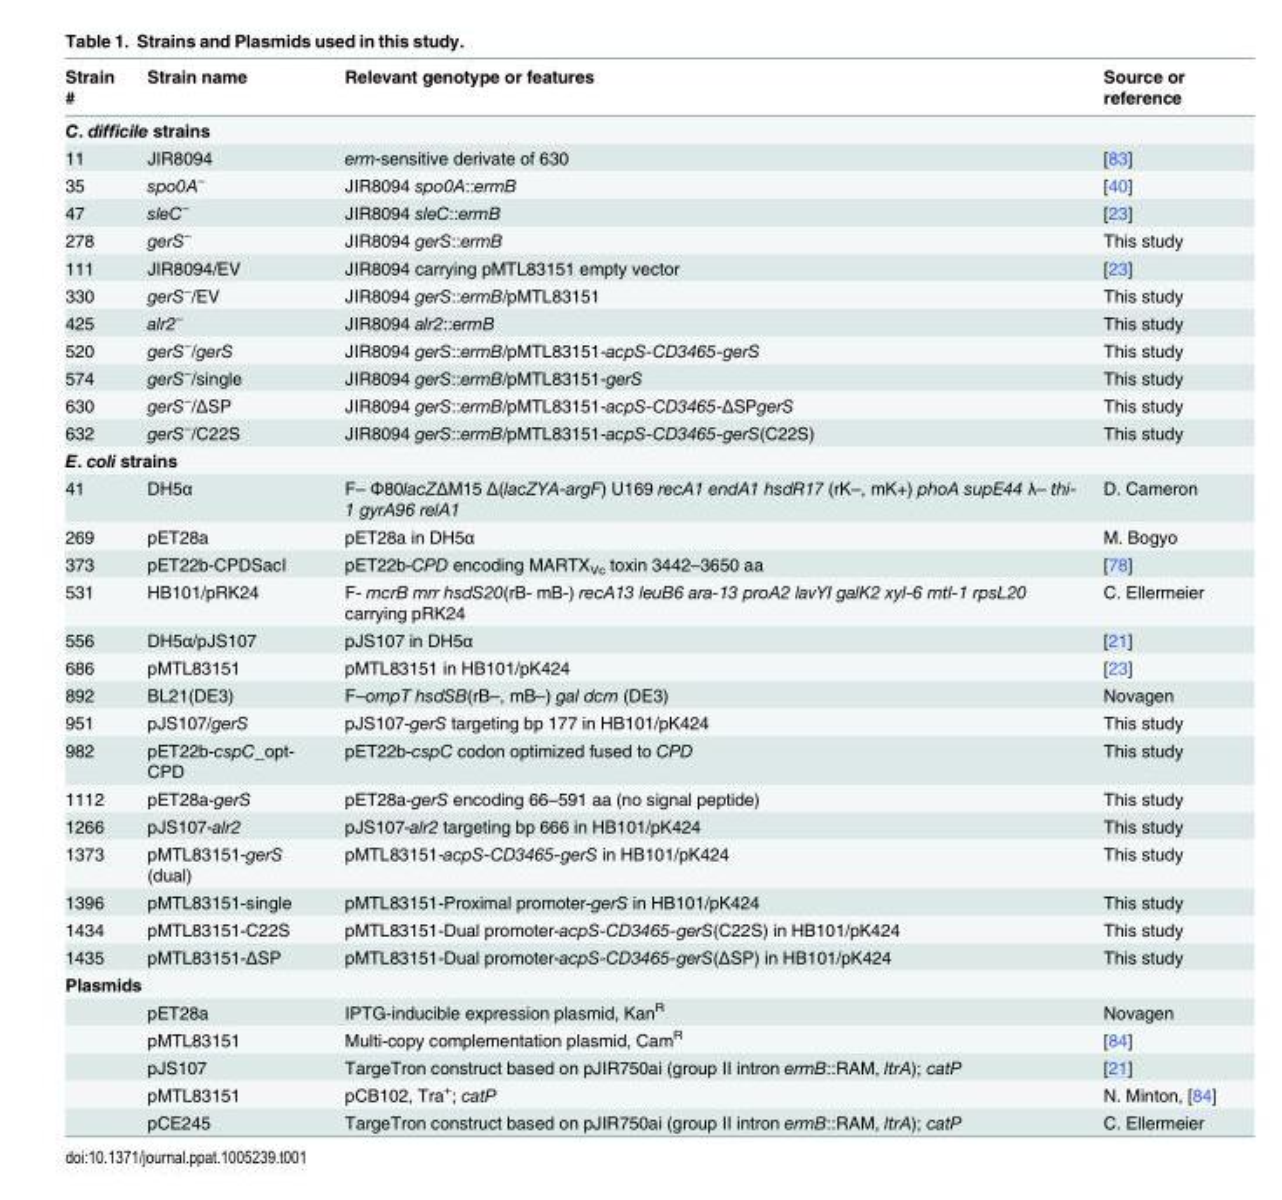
<table><thead><tr><td>Strain #</td><td>Strain name</td><td>Relevant genotype or features</td><td>Source or reference</td></tr></thead><tbody><tr><td colspan="4">C. difficile strains</td></tr><tr><td>11</td><td>JIR8094</td><td>erm-sensitive derivate of 630</td><td>[83]</td></tr><tr><td>35</td><td>spo0A<sup>−</sup></td><td>JIR8094 spo0A::ermB</td><td>[40]</td></tr><tr><td>47</td><td>sleC<sup>−</sup></td><td>JIR8094 sleC::ermB</td><td>[23]</td></tr><tr><td>278</td><td>gerS<sup>−</sup></td><td>JIR8094 gerS::ermB</td><td>This study</td></tr><tr><td>111</td><td>JIR8094/EV</td><td>JIR8094 carrying pMTL83151 empty vector</td><td>[23]</td></tr><tr><td>330</td><td>gerS<sup>−</sup>/EV</td><td>JIR8094 gerS::ermB/pMTL83151</td><td>This study</td></tr><tr><td>425</td><td>alr2<sup>−</sup></td><td>JIR8094 alr2::ermB</td><td>This study</td></tr><tr><td>520</td><td>gerS<sup>−</sup>/gerS</td><td>JIR8094 gerS::ermB/pMTL83151-acpS-CD3465-gerS</td><td>This study</td></tr><tr><td>574</td><td>gerS<sup>−</sup>/single</td><td>JIR8094 gerS::ermB/pMTL83151-gerS</td><td>This study</td></tr><tr><td>630</td><td>gerS<sup>−</sup>/ΔSP</td><td>JIR8094 gerS::ermB/pMTL83151-acpS-CD3465-ΔSPgerS</td><td>This study</td></tr><tr><td>632</td><td>gerS<sup>−</sup>/C22S</td><td>JIR8094 gerS::ermB/pMTL83151-acpS-CD3465-gerS(C22S)</td><td>This study</td></tr><tr><td colspan="4">E. coli strains</td></tr><tr><td>41</td><td>DH5α</td><td>F– Φ80lacZΔM15 Δ(lacZYA-argF) U169 recA1 endA1 hsdR17 (rK–, mK+) phoA supE44 λ– thi- 1 gyrA96 relA1</td><td>D. Cameron</td></tr><tr><td>269</td><td>pET28a</td><td>pET28a in DH5α</td><td>M. Bogyo</td></tr><tr><td>373</td><td>pET22b-CPDSacI</td><td>pET22b-CPD encoding MARTX<sub>Vc</sub> toxin 3442–3650 aa</td><td>[78]</td></tr><tr><td>531</td><td>HB101/pRK24</td><td>F- mcrB mrr hsdS20(rB- mB-) recA13 leuB6 ara-13 proA2 lavYI galK2 xyl-6 mtl-1 rpsL20 carrying pRK24</td><td>C. Ellermeier</td></tr><tr><td>556</td><td>DH5α/pJS107</td><td>pJS107 in DH5α</td><td>[21]</td></tr><tr><td>686</td><td>pMTL83151</td><td>pMTL83151 in HB101/pK424</td><td>[23]</td></tr><tr><td>892</td><td>BL21(DE3)</td><td>F–ompT hsdSB(rB–, mB–) gal dcm (DE3)</td><td>Novagen</td></tr><tr><td>951</td><td>pJS107/gerS</td><td>pJS107-gerS targeting bp 177 in HB101/pK424</td><td>This study</td></tr><tr><td>982</td><td>pET22b-cspC_opt- CPD</td><td>pET22b-cspC codon optimized fused to CPD</td><td>This study</td></tr><tr><td>1112</td><td>pET28a-gerS</td><td>pET28a-gerS encoding 66–591 aa (no signal peptide)</td><td>This study</td></tr><tr><td>1266</td><td>pJS107-alr2</td><td>pJS107-alr2 targeting bp 666 in HB101/pK424</td><td>This study</td></tr><tr><td>1373</td><td>pMTL83151-gerS (dual)</td><td>pMTL83151-acpS-CD3465-gerS in HB101/pK424</td><td>This study</td></tr><tr><td>1396</td><td>pMTL83151-single</td><td>pMTL83151-Proximal promoter-gerS in HB101/pK424</td><td>This study</td></tr><tr><td>1434</td><td>pMTL83151-C22S</td><td>pMTL83151-Dual promoter-acpS-CD3465-gerS(C22S) in HB101/pK424</td><td>This study</td></tr><tr><td>1435</td><td>pMTL83151-ΔSP</td><td>pMTL83151-Dual promoter-acpS-CD3465-gerS(ΔSP) in HB101/pK424</td><td>This study</td></tr><tr><td colspan="4">Plasmids</td></tr><tr><td></td><td>pET28a</td><td>IPTG-inducible expression plasmid, Kan<sup>R</sup></td><td>Novagen</td></tr><tr><td></td><td>pMTL83151</td><td>Multi-copy complementation plasmid, Cam<sup>R</sup></td><td>[84]</td></tr><tr><td></td><td>pJS107</td><td>TargeTron construct based on pJIR750ai (group II intron ermB::RAM, ltrA); catP</td><td>[21]</td></tr><tr><td></td><td>pMTL83151</td><td>pCB102, Tra<sup>+</sup>; catP</td><td>N. Minton, [84]</td></tr><tr><td></td><td>pCE245</td><td>TargeTron construct based on pJIR750ai (group II intron ermB::RAM, ltrA); catP</td><td>C. Ellermeier</td></tr></tbody></table>